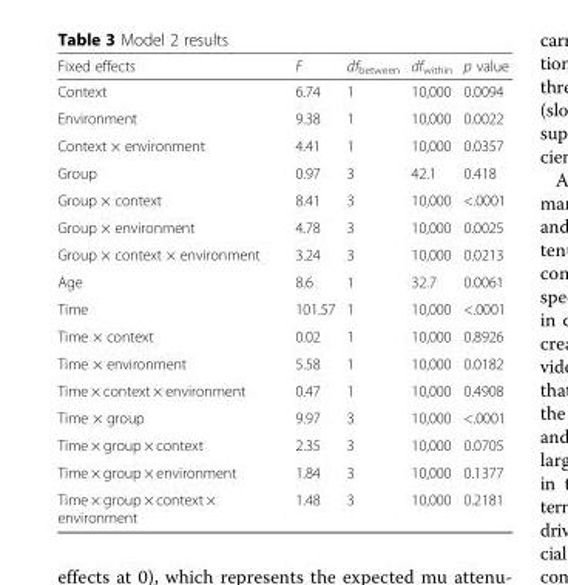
<table><thead><tr><td>Fixed effects</td><td>F</td><td>df<sub>between</sub></td><td>df<sub>within</sub></td><td>p value</td></tr></thead><tbody><tr><td>Context</td><td>6.74</td><td>1</td><td>10,000</td><td>0.0094</td></tr><tr><td>Environment</td><td>9.38</td><td>1</td><td>10,000</td><td>0.0022</td></tr><tr><td>Context × environment</td><td>4.41</td><td>1</td><td>10,000</td><td>0.0357</td></tr><tr><td>Group</td><td>0.97</td><td>3</td><td>42.1</td><td>0.418</td></tr><tr><td>Group × context</td><td>8.41</td><td>3</td><td>10,000</td><td>&lt;.0001</td></tr><tr><td>Group × environment</td><td>4.78</td><td>3</td><td>10,000</td><td>0.0025</td></tr><tr><td>Group × context × environment</td><td>3.24</td><td>3</td><td>10,000</td><td>0.0213</td></tr><tr><td>Age</td><td>8.6</td><td>1</td><td>32.7</td><td>0.0061</td></tr><tr><td>Time</td><td>101.57</td><td>1</td><td>10,000</td><td>&lt;.0001</td></tr><tr><td>Time × context</td><td>0.02</td><td>1</td><td>10,000</td><td>0.8926</td></tr><tr><td>Time × environment</td><td>5.58</td><td>1</td><td>10,000</td><td>0.0182</td></tr><tr><td>Time × context × environment</td><td>0.47</td><td>1</td><td>10,000</td><td>0.4908</td></tr><tr><td>Time × group</td><td>9.97</td><td>3</td><td>10,000</td><td>&lt;.0001</td></tr><tr><td>Time × group × context</td><td>2.35</td><td>3</td><td>10,000</td><td>0.0705</td></tr><tr><td>Time × group × environment</td><td>1.84</td><td>3</td><td>10,000</td><td>0.1377</td></tr><tr><td>Time × group × context × environment</td><td>1.48</td><td>3</td><td>10,000</td><td>0.2181</td></tr></tbody></table>